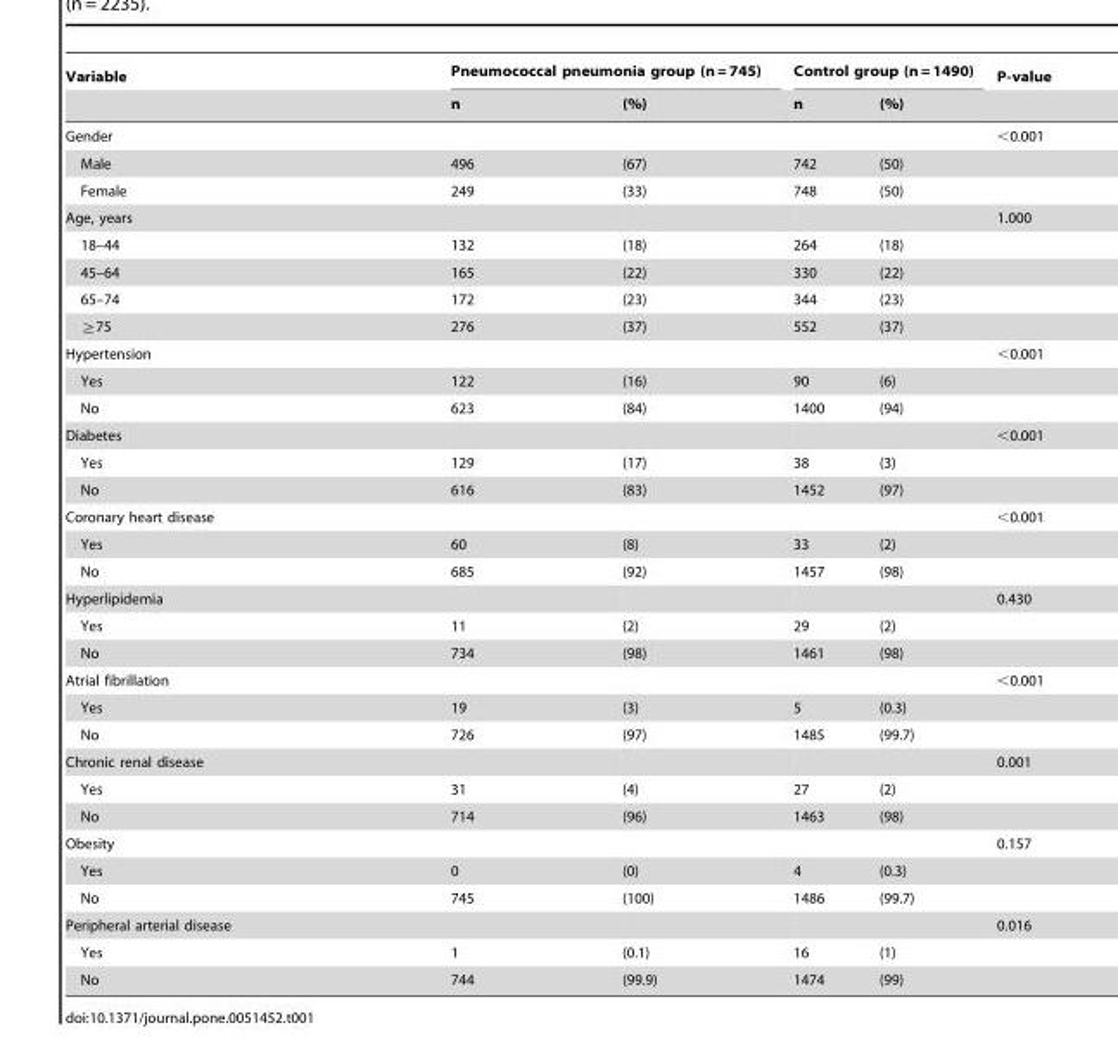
<table><thead><tr><td rowspan="2">Variable</td><td colspan="2">Pneumococcal pneumonia group (n = 745)</td><td colspan="2">Control group (n = 1490)</td><td rowspan="2">P-value</td></tr><tr><td>n</td><td>(%)</td><td>n</td><td>(%)</td></tr></thead><tbody><tr><td>Gender</td><td></td><td></td><td></td><td></td><td>&lt;0.001</td></tr><tr><td>Male</td><td>496</td><td>(67)</td><td>742</td><td>(50)</td><td></td></tr><tr><td>Female</td><td>249</td><td>(33)</td><td>748</td><td>(50)</td><td></td></tr><tr><td>Age, years</td><td></td><td></td><td></td><td></td><td>1.000</td></tr><tr><td>18–44</td><td>132</td><td>(18)</td><td>264</td><td>(18)</td><td></td></tr><tr><td>45–64</td><td>165</td><td>(22)</td><td>330</td><td>(22)</td><td></td></tr><tr><td>65–74</td><td>172</td><td>(23)</td><td>344</td><td>(23)</td><td></td></tr><tr><td>≧75</td><td>276</td><td>(37)</td><td>552</td><td>(37)</td><td></td></tr><tr><td>Hypertension</td><td></td><td></td><td></td><td></td><td>&lt;0.001</td></tr><tr><td>Yes</td><td>122</td><td>(16)</td><td>90</td><td>(6)</td><td></td></tr><tr><td>No</td><td>623</td><td>(84)</td><td>1400</td><td>(94)</td><td></td></tr><tr><td>Diabetes</td><td></td><td></td><td></td><td></td><td>&lt;0.001</td></tr><tr><td>Yes</td><td>129</td><td>(17)</td><td>38</td><td>(3)</td><td></td></tr><tr><td>No</td><td>616</td><td>(83)</td><td>1452</td><td>(97)</td><td></td></tr><tr><td>Coronary heart disease</td><td></td><td></td><td></td><td></td><td>&lt;0.001</td></tr><tr><td>Yes</td><td>60</td><td>(8)</td><td>33</td><td>(2)</td><td></td></tr><tr><td>No</td><td>685</td><td>(92)</td><td>1457</td><td>(98)</td><td></td></tr><tr><td>Hyperlipidemia</td><td></td><td></td><td></td><td></td><td>0.430</td></tr><tr><td>Yes</td><td>11</td><td>(2)</td><td>29</td><td>(2)</td><td></td></tr><tr><td>No</td><td>734</td><td>(98)</td><td>1461</td><td>(98)</td><td></td></tr><tr><td>Atrial fibrillation</td><td></td><td></td><td></td><td></td><td>&lt;0.001</td></tr><tr><td>Yes</td><td>19</td><td>(3)</td><td>5</td><td>(0.3)</td><td></td></tr><tr><td>No</td><td>726</td><td>(97)</td><td>1485</td><td>(99.7)</td><td></td></tr><tr><td>Chronic renal disease</td><td></td><td></td><td></td><td></td><td>0.001</td></tr><tr><td>Yes</td><td>31</td><td>(4)</td><td>27</td><td>(2)</td><td></td></tr><tr><td>No</td><td>714</td><td>(96)</td><td>1463</td><td>(98)</td><td></td></tr><tr><td>Obesity</td><td></td><td></td><td></td><td></td><td>0.157</td></tr><tr><td>Yes</td><td>0</td><td>(0)</td><td>4</td><td>(0.3)</td><td></td></tr><tr><td>No</td><td>745</td><td>(100)</td><td>1486</td><td>(99.7)</td><td></td></tr><tr><td>Peripheral arterial disease</td><td></td><td></td><td></td><td></td><td>0.016</td></tr><tr><td>Yes</td><td>1</td><td>(0.1)</td><td>16</td><td>(1)</td><td></td></tr><tr><td>No</td><td>744</td><td>(99.9)</td><td>1474</td><td>(99)</td><td></td></tr></tbody></table>